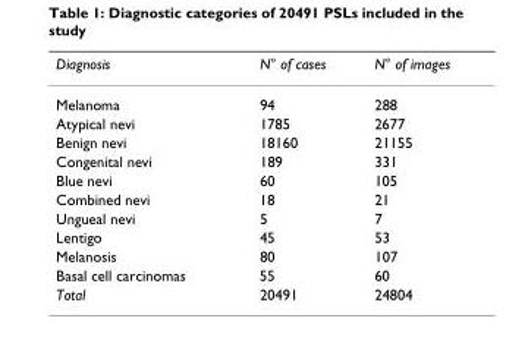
<table><thead><tr><td>Diagnosis</td><td>N° of cases</td><td>N° of images</td></tr></thead><tbody><tr><td>Melanoma</td><td>94</td><td>288</td></tr><tr><td>Atypical nevi</td><td>1785</td><td>2677</td></tr><tr><td>Benign nevi</td><td>18160</td><td>21155</td></tr><tr><td>Congenital nevi</td><td>189</td><td>331</td></tr><tr><td>Blue nevi</td><td>60</td><td>105</td></tr><tr><td>Combined nevi</td><td>18</td><td>21</td></tr><tr><td>Ungueal nevi</td><td>5</td><td>7</td></tr><tr><td>Lentigo</td><td>45</td><td>53</td></tr><tr><td>Melanosis</td><td>80</td><td>107</td></tr><tr><td>Basal cell carcinomas</td><td>55</td><td>60</td></tr><tr><td>Total</td><td>20491</td><td>24804</td></tr></tbody></table>